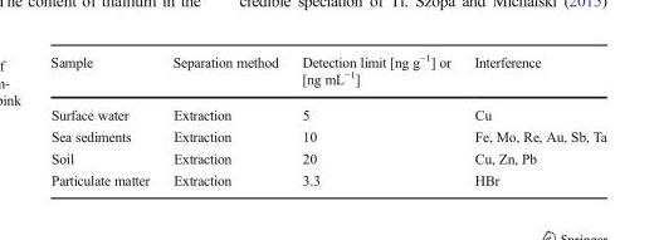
<table><thead><tr><td>Sample</td><td>Separation method</td><td>Detection limit [ng g<sup>−1</sup>] or [ng mL<sup>−1</sup>]</td><td>Interference</td></tr></thead><tbody><tr><td>Surface water</td><td>Extraction</td><td>5</td><td>Cu</td></tr><tr><td>Sea sediments</td><td>Extraction</td><td>10</td><td>Fe, Mo, Re, Au, Sb, Ta</td></tr><tr><td>Soil</td><td>Extraction</td><td>20</td><td>Cu, Zn, Pb</td></tr><tr><td>Particulate matter</td><td>Extraction</td><td>3.3</td><td>HBr</td></tr></tbody></table>